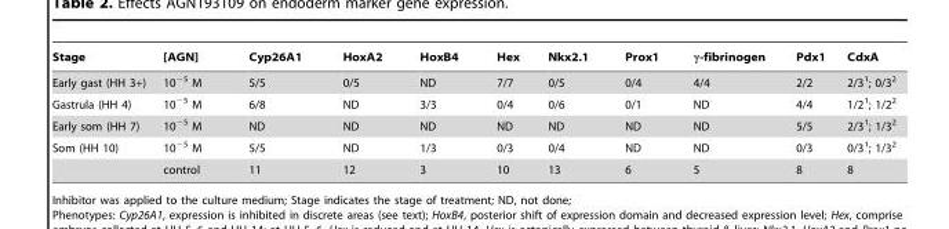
<table><thead><tr><td>Stage</td><td>[AGN]</td><td>Cyp26A1</td><td>HoxA2</td><td>HoxB4</td><td>Hex</td><td>Nkx2.1</td><td>Prox1</td><td>γ-fibrinogen</td><td>Pdx1</td><td>CdxA</td></tr></thead><tbody><tr><td>Early gast (HH 3+)</td><td>10<sup>−5</sup> M</td><td>5/5</td><td>0/5</td><td>ND</td><td>7/7</td><td>0/5</td><td>0/4</td><td>4/4</td><td>2/2</td><td>2/3<sup>1</sup>; 0/3<sup>2</sup></td></tr><tr><td>Gastrula (HH 4)</td><td>10<sup>−5</sup> M</td><td>6/8</td><td>ND</td><td>3/3</td><td>0/4</td><td>0/6</td><td>0/1</td><td>ND</td><td>4/4</td><td>1/2<sup>1</sup>; 1/2<sup>2</sup></td></tr><tr><td>Early som (HH 7)</td><td>10<sup>−5</sup> M</td><td>ND</td><td>ND</td><td>ND</td><td>ND</td><td>ND</td><td>ND</td><td>ND</td><td>5/5</td><td>2/3<sup>1</sup>; 1/3<sup>2</sup></td></tr><tr><td rowspan="2">Som (HH 10)</td><td>10<sup>−5</sup> M</td><td>5/5</td><td>ND</td><td>1/3</td><td>0/3</td><td>0/4</td><td>ND</td><td>ND</td><td>0/3</td><td>0/3<sup>1</sup>; 1/3<sup>2</sup></td></tr><tr><td>control</td><td>11</td><td>12</td><td>3</td><td>10</td><td>13</td><td>6</td><td>5</td><td>8</td><td>8</td></tr></tbody></table>